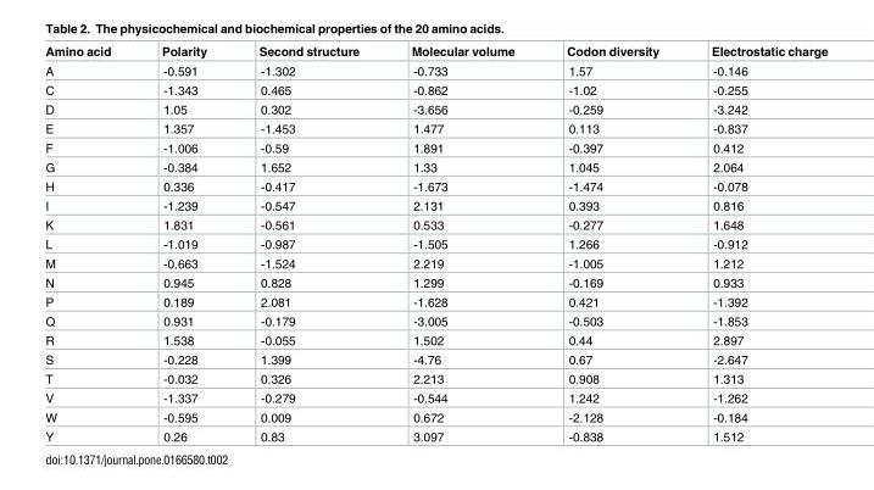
<table><thead><tr><td>Amino acid</td><td>Polarity</td><td>Second structure</td><td>Molecular volume</td><td>Codon diversity</td><td>Electrostatic charge</td></tr></thead><tbody><tr><td>A</td><td>-0.591</td><td>-1.302</td><td>-0.733</td><td>1.57</td><td>-0.146</td></tr><tr><td>C</td><td>-1.343</td><td>0.465</td><td>-0.862</td><td>-1.02</td><td>-0.255</td></tr><tr><td>D</td><td>1.05</td><td>0.302</td><td>-3.656</td><td>-0.259</td><td>-3.242</td></tr><tr><td>E</td><td>1.357</td><td>-1.453</td><td>1.477</td><td>0.113</td><td>-0.837</td></tr><tr><td>F</td><td>-1.006</td><td>-0.59</td><td>1.891</td><td>-0.397</td><td>0.412</td></tr><tr><td>G</td><td>-0.384</td><td>1.652</td><td>1.33</td><td>1.045</td><td>2.064</td></tr><tr><td>H</td><td>0.336</td><td>-0.417</td><td>-1.673</td><td>-1.474</td><td>-0.078</td></tr><tr><td>I</td><td>-1.239</td><td>-0.547</td><td>2.131</td><td>0.393</td><td>0.816</td></tr><tr><td>K</td><td>1.831</td><td>-0.561</td><td>0.533</td><td>-0.277</td><td>1.648</td></tr><tr><td>L</td><td>-1.019</td><td>-0.987</td><td>-1.505</td><td>1.266</td><td>-0.912</td></tr><tr><td>M</td><td>-0.663</td><td>-1.524</td><td>2.219</td><td>-1.005</td><td>1.212</td></tr><tr><td>N</td><td>0.945</td><td>0.828</td><td>1.299</td><td>-0.169</td><td>0.933</td></tr><tr><td>P</td><td>0.189</td><td>2.081</td><td>-1.628</td><td>0.421</td><td>-1.392</td></tr><tr><td>Q</td><td>0.931</td><td>-0.179</td><td>-3.005</td><td>-0.503</td><td>-1.853</td></tr><tr><td>R</td><td>1.538</td><td>-0.055</td><td>1.502</td><td>0.44</td><td>2.897</td></tr><tr><td>S</td><td>-0.228</td><td>1.399</td><td>-4.76</td><td>0.67</td><td>-2.647</td></tr><tr><td>T</td><td>-0.032</td><td>0.326</td><td>2.213</td><td>0.908</td><td>1.313</td></tr><tr><td>V</td><td>-1.337</td><td>-0.279</td><td>-0.544</td><td>1.242</td><td>-1.262</td></tr><tr><td>W</td><td>-0.595</td><td>0.009</td><td>0.672</td><td>-2.128</td><td>-0.184</td></tr><tr><td>Y</td><td>0.26</td><td>0.83</td><td>3.097</td><td>-0.838</td><td>1.512</td></tr></tbody></table>